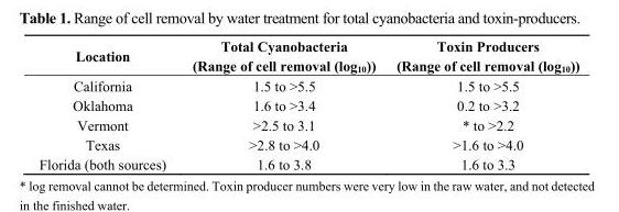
<table><thead><tr><td>Location</td><td>Total Cyanobacteria (Range of cell removal (log<sub>10</sub>))</td><td>Toxin Producers (Range of cell removal (log<sub>10</sub>))</td></tr></thead><tbody><tr><td>California</td><td>1.5 to &gt;5.5</td><td>1.5 to &gt;5.5</td></tr><tr><td>Oklahoma</td><td>1.6 to &gt;3.4</td><td>0.2 to &gt;3.2</td></tr><tr><td>Vermont</td><td>&gt;2.5 to 3.1</td><td>* to &gt;2.2</td></tr><tr><td>Texas</td><td>&gt;2.8 to &gt;4.0</td><td>&gt;1.6 to &gt;4.0</td></tr><tr><td>Florida (both sources)</td><td>1.6 to 3.8</td><td>1.6 to 3.3</td></tr></tbody></table>